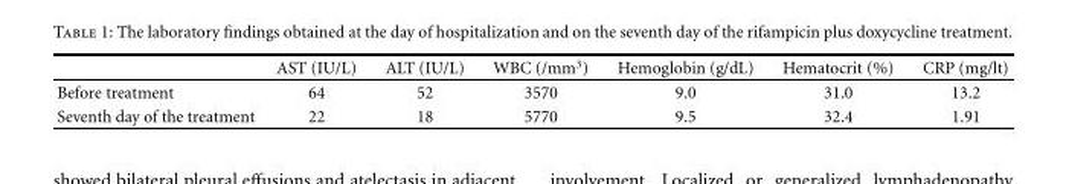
<table><thead><tr><td></td><td>AST (IU/L)</td><td>ALT (IU/L)</td><td>WBC (/mm<sup>3</sup>)</td><td>Hemoglobin (g/dL)</td><td>Hematocrit (%)</td><td>CRP (mg/lt)</td></tr></thead><tbody><tr><td>Before treatment</td><td>64</td><td>52</td><td>3570</td><td>9.0</td><td>31.0</td><td>13.2</td></tr><tr><td>Seventh day of the treatment</td><td>22</td><td>18</td><td>5770</td><td>9.5</td><td>32.4</td><td>1.91</td></tr></tbody></table>